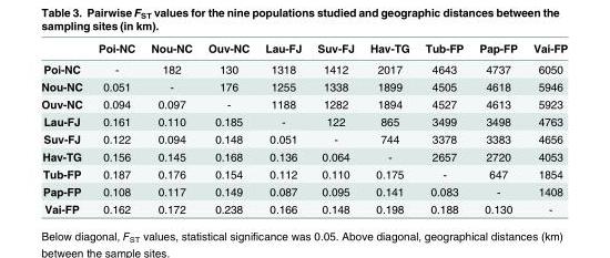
<table><thead><tr><td></td><td>Poi-NC</td><td>Nou-NC</td><td>Ouv-NC</td><td>Lau-FJ</td><td>Suv-FJ</td><td>Hav-TG</td><td>Tub-FP</td><td>Pap-FP</td><td>Vai-FP</td></tr></thead><tbody><tr><td>Poi-NC</td><td>-</td><td>182</td><td>130</td><td>1318</td><td>1412</td><td>2017</td><td>4643</td><td>4737</td><td>6050</td></tr><tr><td>Nou-NC</td><td>0.051</td><td>-</td><td>176</td><td>1255</td><td>1338</td><td>1899</td><td>4505</td><td>4618</td><td>5946</td></tr><tr><td>Ouv-NC</td><td>0.094</td><td>0.097</td><td>-</td><td>1188</td><td>1282</td><td>1894</td><td>4527</td><td>4613</td><td>5923</td></tr><tr><td>Lau-FJ</td><td>0.161</td><td>0.110</td><td>0.185</td><td>-</td><td>122</td><td>865</td><td>3499</td><td>3498</td><td>4763</td></tr><tr><td>Suv-FJ</td><td>0.122</td><td>0.094</td><td>0.148</td><td>0.051</td><td>-</td><td>744</td><td>3378</td><td>3383</td><td>4656</td></tr><tr><td>Hav-TG</td><td>0.156</td><td>0.145</td><td>0.168</td><td>0.136</td><td>0.064</td><td>-</td><td>2657</td><td>2720</td><td>4053</td></tr><tr><td>Tub-FP</td><td>0.187</td><td>0.176</td><td>0.154</td><td>0.112</td><td>0.110</td><td>0.175</td><td>-</td><td>647</td><td>1854</td></tr><tr><td>Pap-FP</td><td>0.108</td><td>0.117</td><td>0.149</td><td>0.087</td><td>0.095</td><td>0.141</td><td>0.083</td><td>-</td><td>1408</td></tr><tr><td>Vai-FP</td><td>0.162</td><td>0.172</td><td>0.238</td><td>0.166</td><td>0.148</td><td>0.198</td><td>0.188</td><td>0.130</td><td>-</td></tr></tbody></table>